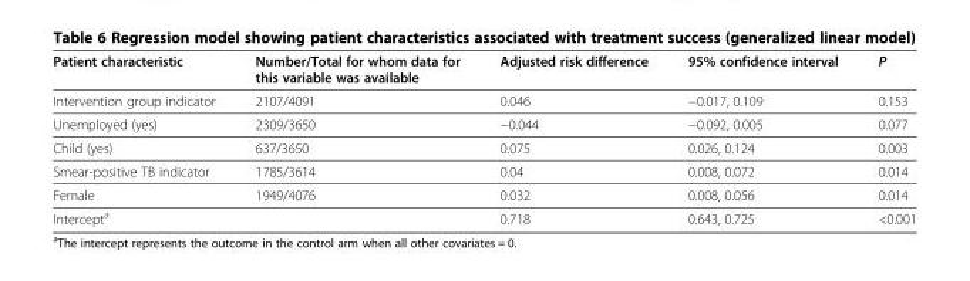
<table><thead><tr><td>Patient characteristic</td><td>Number/Total for whom data for this variable was available</td><td>Adjusted risk difference</td><td>95% confidence interval</td><td>P</td></tr></thead><tbody><tr><td>Intervention group indicator</td><td>2107/4091</td><td>0.046</td><td>−0.017, 0.109</td><td>0.153</td></tr><tr><td>Unemployed (yes)</td><td>2309/3650</td><td>−0.044</td><td>−0.092, 0.005</td><td>0.077</td></tr><tr><td>Child (yes)</td><td>637/3650</td><td>0.075</td><td>0.026, 0.124</td><td>0.003</td></tr><tr><td>Smear-positive TB indicator</td><td>1785/3614</td><td>0.04</td><td>0.008, 0.072</td><td>0.014</td></tr><tr><td>Female</td><td>1949/4076</td><td>0.032</td><td>0.008, 0.056</td><td>0.014</td></tr><tr><td>Intercept<sup>a</sup></td><td></td><td>0.718</td><td>0.643, 0.725</td><td>&lt;0.001</td></tr></tbody></table>